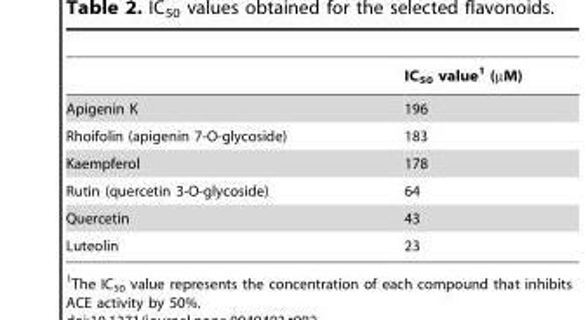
<table><thead><tr><td></td><td>IC<sub>50</sub> value<sup>1</sup> (µM)</td></tr></thead><tbody><tr><td>Apigenin K</td><td>196</td></tr><tr><td>Rhoifolin (apigenin 7-O-glycoside)</td><td>183</td></tr><tr><td>Kaempferol</td><td>178</td></tr><tr><td>Rutin (quercetin 3-O-glycoside)</td><td>64</td></tr><tr><td>Quercetin</td><td>43</td></tr><tr><td>Luteolin</td><td>23</td></tr></tbody></table>